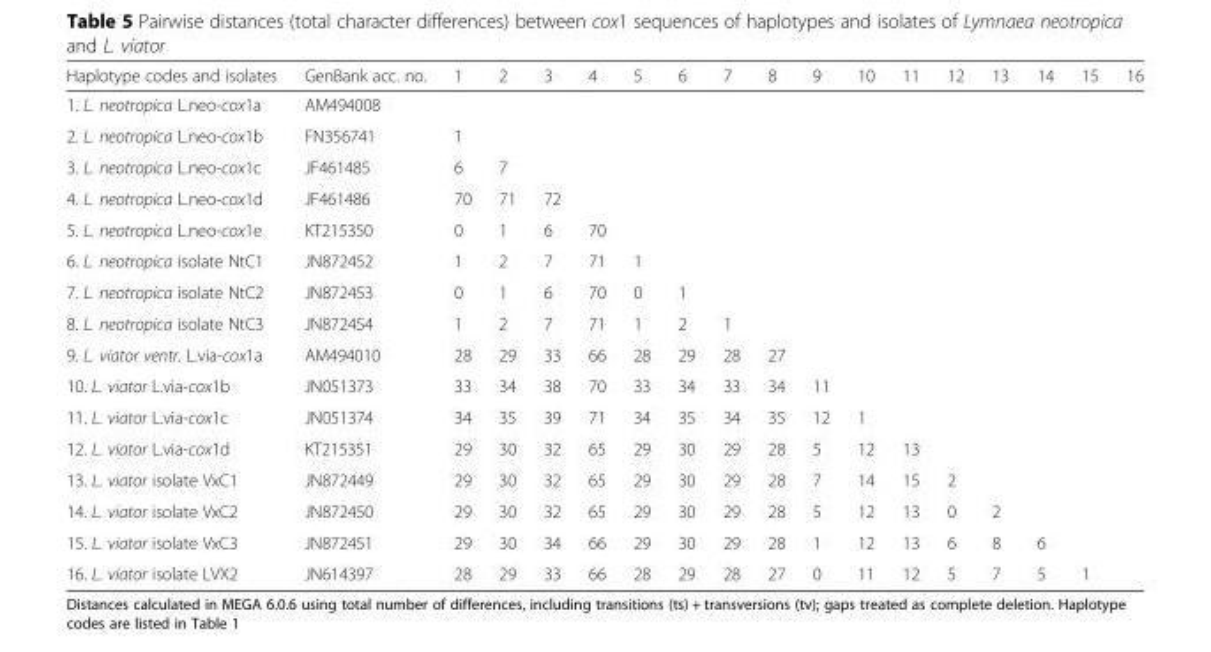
<table><thead><tr><td>Haplotype codes and isolates</td><td>GenBank acc. no.</td><td>1</td><td>2</td><td>3</td><td>4</td><td>5</td><td>6</td><td>7</td><td>8</td><td>9</td><td>10</td><td>11</td><td>12</td><td>13</td><td>14</td><td>15</td><td>16</td></tr></thead><tbody><tr><td>1. L. neotropica L.neo-cox1a</td><td>AM494008</td><td></td><td></td><td></td><td></td><td></td><td></td><td></td><td></td><td></td><td></td><td></td><td></td><td></td><td></td><td></td><td></td></tr><tr><td>2. L. neotropica L.neo-cox1b</td><td>FN356741</td><td>1</td><td></td><td></td><td></td><td></td><td></td><td></td><td></td><td></td><td></td><td></td><td></td><td></td><td></td><td></td><td></td></tr><tr><td>3. L. neotropica L.neo-cox1c</td><td>JF461485</td><td>6</td><td>7</td><td></td><td></td><td></td><td></td><td></td><td></td><td></td><td></td><td></td><td></td><td></td><td></td><td></td><td></td></tr><tr><td>4. L. neotropica L.neo-cox1d</td><td>JF461486</td><td>70</td><td>71</td><td>72</td><td></td><td></td><td></td><td></td><td></td><td></td><td></td><td></td><td></td><td></td><td></td><td></td><td></td></tr><tr><td>5. L. neotropica L.neo-cox1e</td><td>KT215350</td><td>0</td><td>1</td><td>6</td><td>70</td><td></td><td></td><td></td><td></td><td></td><td></td><td></td><td></td><td></td><td></td><td></td><td></td></tr><tr><td>6. L. neotropica isolate NtC1</td><td>JN872452</td><td>1</td><td>2</td><td>7</td><td>71</td><td>1</td><td></td><td></td><td></td><td></td><td></td><td></td><td></td><td></td><td></td><td></td><td></td></tr><tr><td>7. L. neotropica isolate NtC2</td><td>JN872453</td><td>0</td><td>1</td><td>6</td><td>70</td><td>0</td><td>1</td><td></td><td></td><td></td><td></td><td></td><td></td><td></td><td></td><td></td><td></td></tr><tr><td>8. L. neotropica isolate NtC3</td><td>JN872454</td><td>1</td><td>2</td><td>7</td><td>71</td><td>1</td><td>2</td><td>1</td><td></td><td></td><td></td><td></td><td></td><td></td><td></td><td></td><td></td></tr><tr><td>9. L. viator ventr. L.via-cox1a</td><td>AM494010</td><td>28</td><td>29</td><td>33</td><td>66</td><td>28</td><td>29</td><td>28</td><td>27</td><td></td><td></td><td></td><td></td><td></td><td></td><td></td><td></td></tr><tr><td>10. L. viator L.via-cox1b</td><td>JN051373</td><td>33</td><td>34</td><td>38</td><td>70</td><td>33</td><td>34</td><td>33</td><td>34</td><td>11</td><td></td><td></td><td></td><td></td><td></td><td></td><td></td></tr><tr><td>11. L. viator L.via-cox1c</td><td>JN051374</td><td>34</td><td>35</td><td>39</td><td>71</td><td>34</td><td>35</td><td>34</td><td>35</td><td>12</td><td>1</td><td></td><td></td><td></td><td></td><td></td><td></td></tr><tr><td>12. L. viator L.via-cox1d</td><td>KT215351</td><td>29</td><td>30</td><td>32</td><td>65</td><td>29</td><td>30</td><td>29</td><td>28</td><td>5</td><td>12</td><td>13</td><td></td><td></td><td></td><td></td><td></td></tr><tr><td>13. L. viator isolate VxC1</td><td>JN872449</td><td>29</td><td>30</td><td>32</td><td>65</td><td>29</td><td>30</td><td>29</td><td>28</td><td>7</td><td>14</td><td>15</td><td>2</td><td></td><td></td><td></td><td></td></tr><tr><td>14. L. viator isolate VxC2</td><td>JN872450</td><td>29</td><td>30</td><td>32</td><td>65</td><td>29</td><td>30</td><td>29</td><td>28</td><td>5</td><td>12</td><td>13</td><td>0</td><td>2</td><td></td><td></td><td></td></tr><tr><td>15. L. viator isolate VxC3</td><td>JN872451</td><td>29</td><td>30</td><td>34</td><td>66</td><td>29</td><td>30</td><td>29</td><td>28</td><td>1</td><td>12</td><td>13</td><td>6</td><td>8</td><td>6</td><td></td><td></td></tr><tr><td>16. L. viator isolate LVX2</td><td>JN614397</td><td>28</td><td>29</td><td>33</td><td>66</td><td>28</td><td>29</td><td>28</td><td>27</td><td>0</td><td>11</td><td>12</td><td>5</td><td>7</td><td>5</td><td>1</td><td></td></tr></tbody></table>